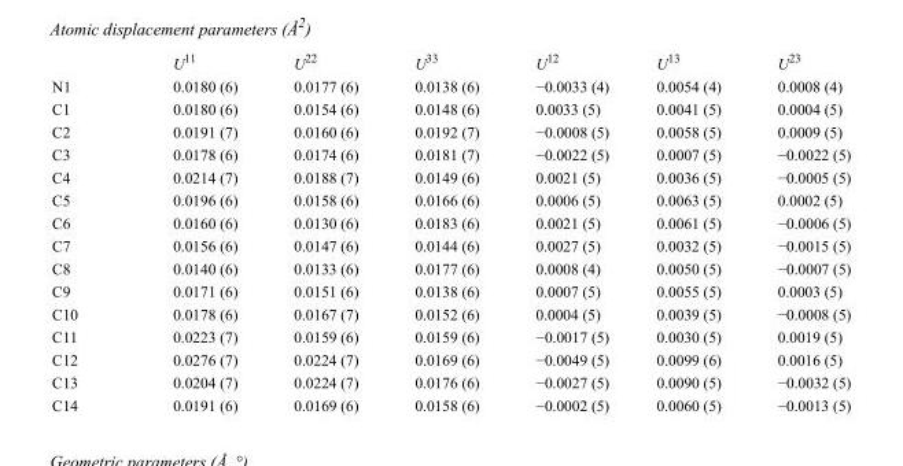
<table><thead><tr><td></td><td>U<sup>11</sup></td><td>U<sup>22</sup></td><td>U<sup>33</sup></td><td>U<sup>12</sup></td><td>U<sup>13</sup></td><td>U<sup>23</sup></td></tr></thead><tbody><tr><td>N1</td><td>0.0180 (6)</td><td>0.0177 (6)</td><td>0.0138 (6)</td><td>−0.0033 (4)</td><td>0.0054 (4)</td><td>0.0008 (4)</td></tr><tr><td>C1</td><td>0.0180 (6)</td><td>0.0154 (6)</td><td>0.0148 (6)</td><td>0.0033 (5)</td><td>0.0041 (5)</td><td>0.0004 (5)</td></tr><tr><td>C2</td><td>0.0191 (7)</td><td>0.0160 (6)</td><td>0.0192 (7)</td><td>−0.0008 (5)</td><td>0.0058 (5)</td><td>0.0009 (5)</td></tr><tr><td>C3</td><td>0.0178 (6)</td><td>0.0174 (6)</td><td>0.0181 (7)</td><td>−0.0022 (5)</td><td>0.0007 (5)</td><td>−0.0022 (5)</td></tr><tr><td>C4</td><td>0.0214 (7)</td><td>0.0188 (7)</td><td>0.0149 (6)</td><td>0.0021 (5)</td><td>0.0036 (5)</td><td>−0.0005 (5)</td></tr><tr><td>C5</td><td>0.0196 (6)</td><td>0.0158 (6)</td><td>0.0166 (6)</td><td>0.0006 (5)</td><td>0.0063 (5)</td><td>0.0002 (5)</td></tr><tr><td>C6</td><td>0.0160 (6)</td><td>0.0130 (6)</td><td>0.0183 (6)</td><td>0.0021 (5)</td><td>0.0061 (5)</td><td>−0.0006 (5)</td></tr><tr><td>C7</td><td>0.0156 (6)</td><td>0.0147 (6)</td><td>0.0144 (6)</td><td>0.0027 (5)</td><td>0.0032 (5)</td><td>−0.0015 (5)</td></tr><tr><td>C8</td><td>0.0140 (6)</td><td>0.0133 (6)</td><td>0.0177 (6)</td><td>0.0008 (4)</td><td>0.0050 (5)</td><td>−0.0007 (5)</td></tr><tr><td>C9</td><td>0.0171 (6)</td><td>0.0151 (6)</td><td>0.0138 (6)</td><td>0.0007 (5)</td><td>0.0055 (5)</td><td>0.0003 (5)</td></tr><tr><td>C10</td><td>0.0178 (6)</td><td>0.0167 (7)</td><td>0.0152 (6)</td><td>0.0004 (5)</td><td>0.0039 (5)</td><td>−0.0008 (5)</td></tr><tr><td>C11</td><td>0.0223 (7)</td><td>0.0159 (6)</td><td>0.0159 (6)</td><td>−0.0017 (5)</td><td>0.0030 (5)</td><td>0.0019 (5)</td></tr><tr><td>C12</td><td>0.0276 (7)</td><td>0.0224 (7)</td><td>0.0169 (6)</td><td>−0.0049 (5)</td><td>0.0099 (6)</td><td>0.0016 (5)</td></tr><tr><td>C13</td><td>0.0204 (7)</td><td>0.0224 (7)</td><td>0.0176 (6)</td><td>−0.0027 (5)</td><td>0.0090 (5)</td><td>−0.0032 (5)</td></tr><tr><td>C14</td><td>0.0191 (6)</td><td>0.0169 (6)</td><td>0.0158 (6)</td><td>−0.0002 (5)</td><td>0.0060 (5)</td><td>−0.0013 (5)</td></tr></tbody></table>